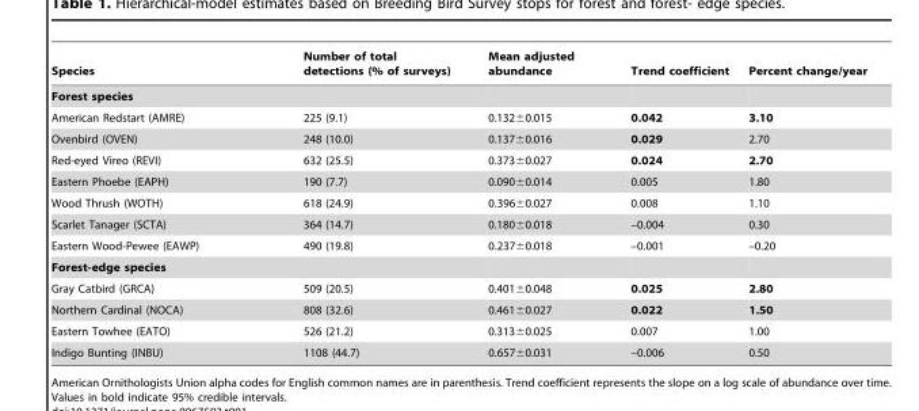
<table><thead><tr><td>Species</td><td>Number of total detections (% of surveys)</td><td>Mean adjusted abundance</td><td>Trend coefficient</td><td>Percent change/year</td></tr></thead><tbody><tr><td colspan="5">Forest species</td></tr><tr><td>American Redstart (AMRE)</td><td>225 (9.1)</td><td>0.132±0.015</td><td>0.042</td><td>3.10</td></tr><tr><td>Ovenbird (OVEN)</td><td>248 (10.0)</td><td>0.137±0.016</td><td>0.029</td><td>2.70</td></tr><tr><td>Red-eyed Vireo (REVI)</td><td>632 (25.5)</td><td>0.373±0.027</td><td>0.024</td><td>2.70</td></tr><tr><td>Eastern Phoebe (EAPH)</td><td>190 (7.7)</td><td>0.090±0.014</td><td>0.005</td><td>1.80</td></tr><tr><td>Wood Thrush (WOTH)</td><td>618 (24.9)</td><td>0.396±0.027</td><td>0.008</td><td>1.10</td></tr><tr><td>Scarlet Tanager (SCTA)</td><td>364 (14.7)</td><td>0.180±0.018</td><td>–0.004</td><td>0.30</td></tr><tr><td>Eastern Wood-Pewee (EAWP)</td><td>490 (19.8)</td><td>0.237±0.018</td><td>–0.001</td><td>–0.20</td></tr><tr><td colspan="5">Forest-edge species</td></tr><tr><td>Gray Catbird (GRCA)</td><td>509 (20.5)</td><td>0.401±0.048</td><td>0.025</td><td>2.80</td></tr><tr><td>Northern Cardinal (NOCA)</td><td>808 (32.6)</td><td>0.461±0.027</td><td>0.022</td><td>1.50</td></tr><tr><td>Eastern Towhee (EATO)</td><td>526 (21.2)</td><td>0.313±0.025</td><td>0.007</td><td>1.00</td></tr><tr><td>Indigo Bunting (INBU)</td><td>1108 (44.7)</td><td>0.657±0.031</td><td>–0.006</td><td>0.50</td></tr></tbody></table>